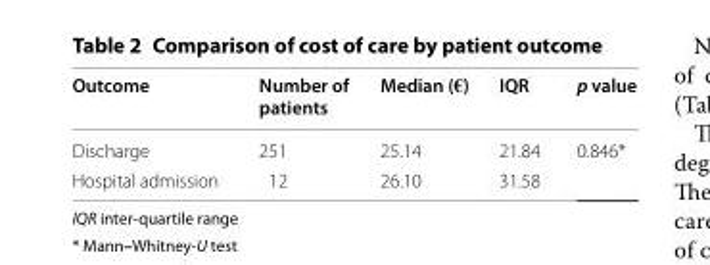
<table><thead><tr><td>Outcome</td><td>Number of patients</td><td>Median (€)</td><td>IQR</td><td>p value</td></tr></thead><tbody><tr><td>Discharge</td><td>251</td><td>25.14</td><td>21.84</td><td rowspan="2">0.846*</td></tr><tr><td>Hospital admission</td><td>12</td><td>26.10</td><td>31.58</td></tr></tbody></table>